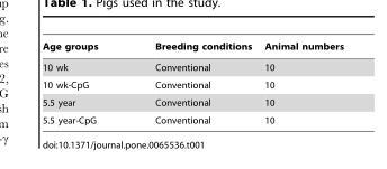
<table><thead><tr><td>Age groups</td><td>Breeding conditions</td><td>Animal numbers</td></tr></thead><tbody><tr><td>10 wk</td><td>Conventional</td><td>10</td></tr><tr><td>10 wk-CpG</td><td>Conventional</td><td>10</td></tr><tr><td>5.5 year</td><td>Conventional</td><td>10</td></tr><tr><td>5.5 year-CpG</td><td>Conventional</td><td>10</td></tr></tbody></table>